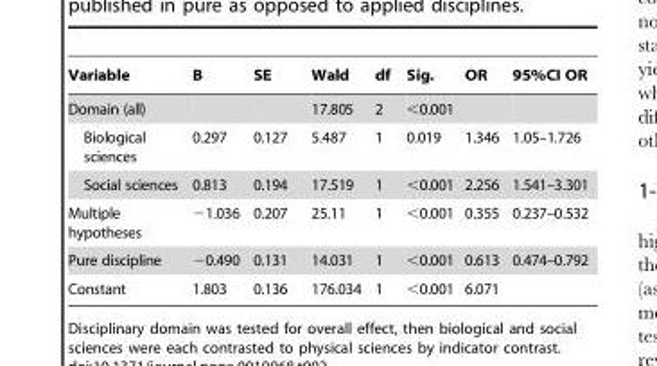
<table><thead><tr><td>Variable</td><td>B</td><td>SE</td><td>Wald</td><td>df</td><td>Sig.</td><td>OR</td><td>95%CI OR</td></tr></thead><tbody><tr><td>Domain (all)</td><td></td><td></td><td>17.805</td><td>2</td><td>&lt;0.001</td><td></td><td></td></tr><tr><td>Biological sciences</td><td>0.297</td><td>0.127</td><td>5.487</td><td>1</td><td>0.019</td><td>1.346</td><td>1.05–1.726</td></tr><tr><td>Social sciences</td><td>0.813</td><td>0.194</td><td>17.519</td><td>1</td><td>&lt;0.001</td><td>2.256</td><td>1.541–3.301</td></tr><tr><td>Multiple hypotheses</td><td>−1.036</td><td>0.207</td><td>25.11</td><td>1</td><td>&lt;0.001</td><td>0.355</td><td>0.237–0.532</td></tr><tr><td>Pure discipline</td><td>−0.490</td><td>0.131</td><td>14.031</td><td>1</td><td>&lt;0.001</td><td>0.613</td><td>0.474–0.792</td></tr><tr><td>Constant</td><td>1.803</td><td>0.136</td><td>176.034</td><td>1</td><td>&lt;0.001</td><td>6.071</td><td></td></tr></tbody></table>